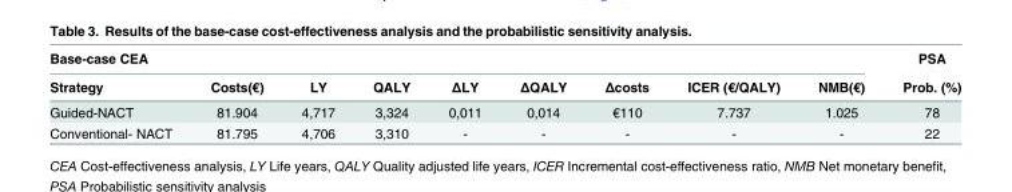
<table><thead><tr><td colspan="9">Base-case CEA</td><td rowspan="2">PSA Prob. (%)</td></tr><tr><td>Strategy</td><td>Costs(€)</td><td>LY</td><td>QALY</td><td>ΔLY</td><td>ΔQALY</td><td>Δcosts</td><td>ICER (€/QALY)</td><td>NMB(€)</td></tr></thead><tbody><tr><td>Guided-NACT</td><td>81.904</td><td>4,717</td><td>3,324</td><td>0,011</td><td>0,014</td><td>€110</td><td>7.737</td><td>1.025</td><td>78</td></tr><tr><td>Conventional- NACT</td><td>81.795</td><td>4,706</td><td>3,310</td><td>-</td><td>-</td><td>-</td><td>-</td><td>-</td><td>22</td></tr></tbody></table>